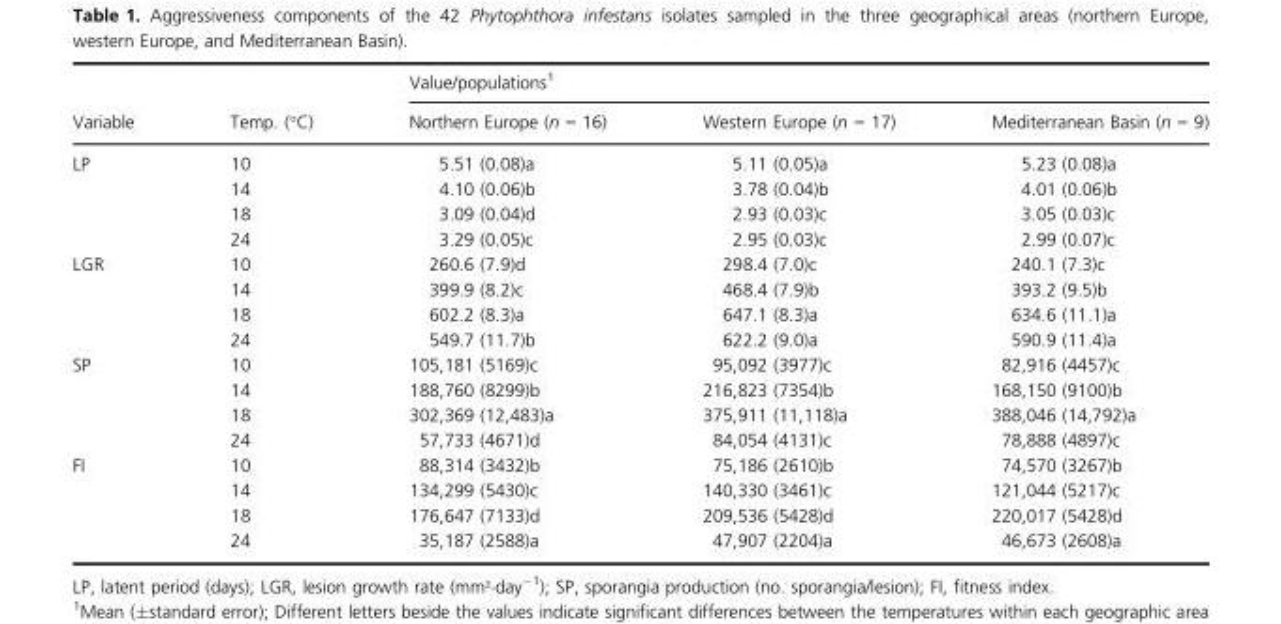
<table><thead><tr><td rowspan="2">Variable</td><td rowspan="2">Temp. (°C)</td><td colspan="3">Value/populations<sup>1</sup></td></tr><tr><td>Northern Europe (n = 16)</td><td>Western Europe (n = 17)</td><td>Mediterranean Basin (n = 9)</td></tr></thead><tbody><tr><td rowspan="4">LP</td><td>10</td><td>5.51 (0.08)a</td><td>5.11 (0.05)a</td><td>5.23 (0.08)a</td></tr><tr><td>14</td><td>4.10 (0.06)b</td><td>3.78 (0.04)b</td><td>4.01 (0.06)b</td></tr><tr><td>18</td><td>3.09 (0.04)d</td><td>2.93 (0.03)c</td><td>3.05 (0.03)c</td></tr><tr><td>24</td><td>3.29 (0.05)c</td><td>2.95 (0.03)c</td><td>2.99 (0.07)c</td></tr><tr><td rowspan="4">LGR</td><td>10</td><td>260.6 (7.9)d</td><td>298.4 (7.0)c</td><td>240.1 (7.3)c</td></tr><tr><td>14</td><td>399.9 (8.2)c</td><td>468.4 (7.9)b</td><td>393.2 (9.5)b</td></tr><tr><td>18</td><td>602.2 (8.3)a</td><td>647.1 (8.3)a</td><td>634.6 (11.1)a</td></tr><tr><td>24</td><td>549.7 (11.7)b</td><td>622.2 (9.0)a</td><td>590.9 (11.4)a</td></tr><tr><td rowspan="4">SP</td><td>10</td><td>105,181 (5169)c</td><td>95,092 (3977)c</td><td>82,916 (4457)c</td></tr><tr><td>14</td><td>188,760 (8299)b</td><td>216,823 (7354)b</td><td>168,150 (9100)b</td></tr><tr><td>18</td><td>302,369 (12,483)a</td><td>375,911 (11,118)a</td><td>388,046 (14,792)a</td></tr><tr><td>24</td><td>57,733 (4671)d</td><td>84,054 (4131)c</td><td>78,888 (4897)c</td></tr><tr><td rowspan="4">FI</td><td>10</td><td>88,314 (3432)b</td><td>75,186 (2610)b</td><td>74,570 (3267)b</td></tr><tr><td>14</td><td>134,299 (5430)c</td><td>140,330 (3461)c</td><td>121,044 (5217)c</td></tr><tr><td>18</td><td>176,647 (7133)d</td><td>209,536 (5428)d</td><td>220,017 (5428)d</td></tr><tr><td>24</td><td>35,187 (2588)a</td><td>47,907 (2204)a</td><td>46,673 (2608)a</td></tr></tbody></table>